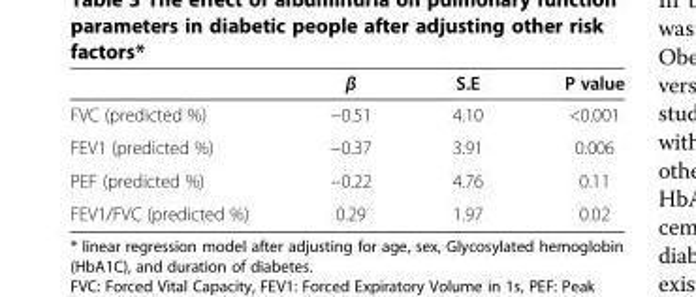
<table><thead><tr><td></td><td>β</td><td>S.E</td><td>P value</td></tr></thead><tbody><tr><td>FVC (predicted %)</td><td>−0.51</td><td>4.10</td><td>&lt;0.001</td></tr><tr><td>FEV1 (predicted %)</td><td>−0.37</td><td>3.91</td><td>0.006</td></tr><tr><td>PEF (predicted %)</td><td>−0.22</td><td>4.76</td><td>0.11</td></tr><tr><td>FEV1/FVC (predicted %)</td><td>0.29</td><td>1.97</td><td>0.02</td></tr></tbody></table>